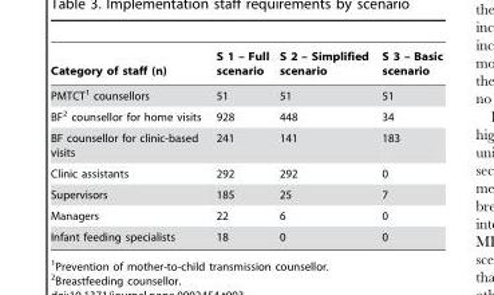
<table><thead><tr><td>Category of staff (n)</td><td>S 1 – Full scenario</td><td>S 2 – Simplified scenario</td><td>S 3 – Basic scenario</td></tr></thead><tbody><tr><td>PMTCT<sup>1</sup> counsellors</td><td>51</td><td>51</td><td>51</td></tr><tr><td>BF<sup>2</sup> counsellor for home visits</td><td>928</td><td>448</td><td>34</td></tr><tr><td>BF counsellor for clinic-based visits</td><td>241</td><td>141</td><td>183</td></tr><tr><td>Clinic assistants</td><td>292</td><td>292</td><td>0</td></tr><tr><td>Supervisors</td><td>185</td><td>25</td><td>7</td></tr><tr><td>Managers</td><td>22</td><td>6</td><td>0</td></tr><tr><td>Infant feeding specialists</td><td>18</td><td>0</td><td>0</td></tr></tbody></table>